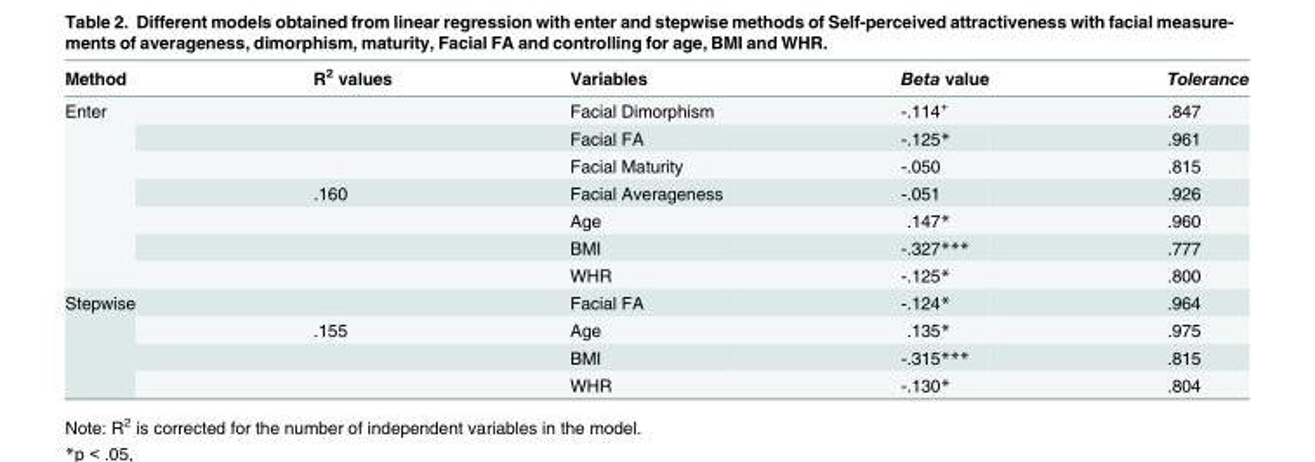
<table><thead><tr><td>Method</td><td>R<sup>2</sup> values</td><td>Variables</td><td>Beta value</td><td>Tolerance</td></tr></thead><tbody><tr><td rowspan="7">Enter</td><td></td><td>Facial Dimorphism</td><td>-.114<sup>+</sup></td><td>.847</td></tr><tr><td></td><td>Facial FA</td><td>-.125*</td><td>.961</td></tr><tr><td></td><td>Facial Maturity</td><td>-.050</td><td>.815</td></tr><tr><td>.160</td><td>Facial Averageness</td><td>-.051</td><td>.926</td></tr><tr><td></td><td>Age</td><td>.147*</td><td>.960</td></tr><tr><td></td><td>BMI</td><td>-.327***</td><td>.777</td></tr><tr><td></td><td>WHR</td><td>-.125*</td><td>.800</td></tr><tr><td rowspan="4">Stepwise</td><td></td><td>Facial FA</td><td>-.124*</td><td>.964</td></tr><tr><td>.155</td><td>Age</td><td>.135*</td><td>.975</td></tr><tr><td></td><td>BMI</td><td>-.315***</td><td>.815</td></tr><tr><td></td><td>WHR</td><td>-.130*</td><td>.804</td></tr></tbody></table>